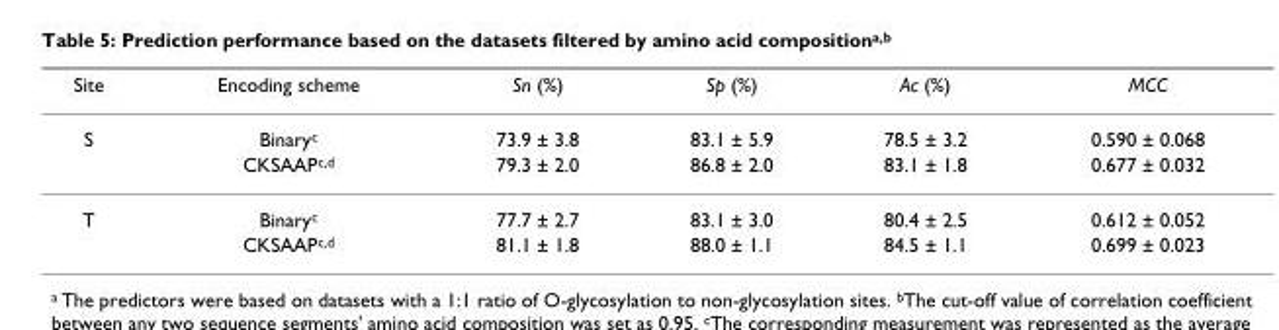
<table><thead><tr><td>Site</td><td>Encoding scheme</td><td>Sn (%)</td><td>Sp (%)</td><td>Ac (%)</td><td>MCC</td></tr></thead><tbody><tr><td rowspan="2">S</td><td>Binary<sup>c</sup></td><td>73.9 ± 3.8</td><td>83.1 ± 5.9</td><td>78.5 ± 3.2</td><td>0.590 ± 0.068</td></tr><tr><td>CKSAAP<sup>c,d</sup></td><td>79.3 ± 2.0</td><td>86.8 ± 2.0</td><td>83.1 ± 1.8</td><td>0.677 ± 0.032</td></tr><tr><td rowspan="2">T</td><td>Binary<sup>c</sup></td><td>77.7 ± 2.7</td><td>83.1 ± 3.0</td><td>80.4 ± 2.5</td><td>0.612 ± 0.052</td></tr><tr><td>CKSAAP<sup>c,d</sup></td><td>81.1 ± 1.8</td><td>88.0 ± 1.1</td><td>84.5 ± 1.1</td><td>0.699 ± 0.023</td></tr></tbody></table>